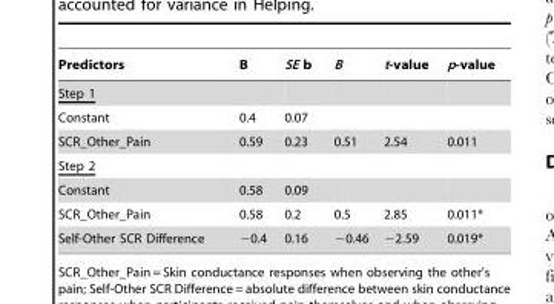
<table><thead><tr><td>Predictors</td><td>B</td><td>SE b</td><td>B</td><td>t-value</td><td>p-value</td></tr></thead><tbody><tr><td colspan="6">Step 1</td></tr><tr><td>Constant</td><td>0.4</td><td>0.07</td><td></td><td></td><td></td></tr><tr><td>SCR_Other_Pain</td><td>0.59</td><td>0.23</td><td>0.51</td><td>2.54</td><td>0.011</td></tr><tr><td colspan="6">Step 2</td></tr><tr><td>Constant</td><td>0.58</td><td>0.09</td><td></td><td></td><td></td></tr><tr><td>SCR_Other_Pain</td><td>0.58</td><td>0.2</td><td>0.5</td><td>2.85</td><td>0.011*</td></tr><tr><td>Self-Other SCR Difference</td><td>−0.4</td><td>0.16</td><td>−0.46</td><td>−2.59</td><td>0.019*</td></tr></tbody></table>